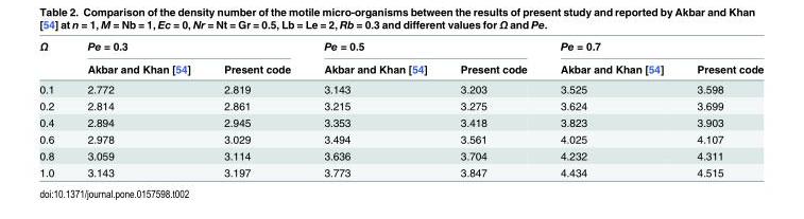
<table><thead><tr><td rowspan="2">Ω</td><td colspan="2">Pe = 0.3</td><td colspan="2">Pe = 0.5</td><td colspan="2">Pe = 0.7</td></tr><tr><td>Akbar and Khan [54]</td><td>Present code</td><td>Akbar and Khan [54]</td><td>Present code</td><td>Akbar and Khan [54]</td><td>Present code</td></tr></thead><tbody><tr><td>0.1</td><td>2.772</td><td>2.819</td><td>3.143</td><td>3.203</td><td>3.525</td><td>3.598</td></tr><tr><td>0.2</td><td>2.814</td><td>2.861</td><td>3.215</td><td>3.275</td><td>3.624</td><td>3.699</td></tr><tr><td>0.4</td><td>2.894</td><td>2.945</td><td>3.353</td><td>3.418</td><td>3.823</td><td>3.903</td></tr><tr><td>0.6</td><td>2.978</td><td>3.029</td><td>3.494</td><td>3.561</td><td>4.025</td><td>4.107</td></tr><tr><td>0.8</td><td>3.059</td><td>3.114</td><td>3.636</td><td>3.704</td><td>4.232</td><td>4.311</td></tr><tr><td>1.0</td><td>3.143</td><td>3.197</td><td>3.773</td><td>3.847</td><td>4.434</td><td>4.515</td></tr></tbody></table>